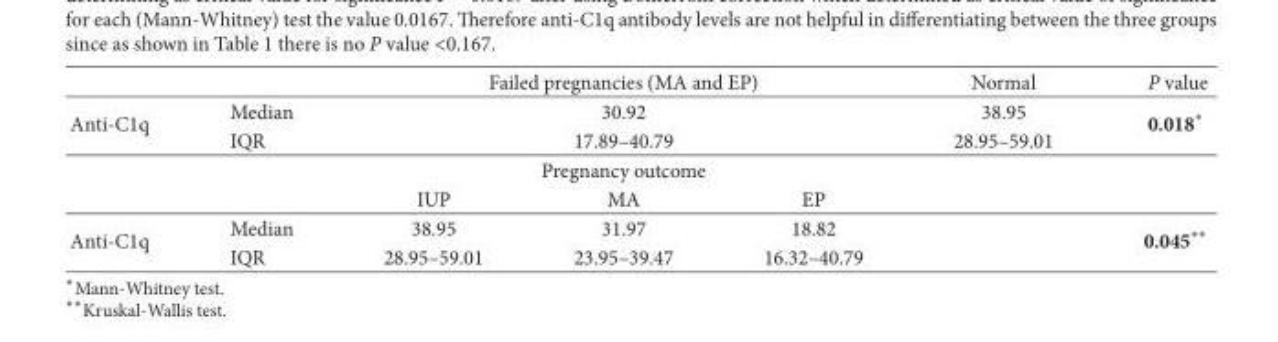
<table><thead><tr><td></td><td></td><td colspan="3">Failed pregnancies (MA and EP)</td><td>Normal</td><td>P value</td></tr></thead><tbody><tr><td rowspan="4">Anti-C1q</td><td>Median</td><td colspan="3">30.92</td><td>38.95</td><td rowspan="2">0.018∗</td></tr><tr><td>IQR</td><td colspan="3">17.89–40.79</td><td>28.95–59.01</td></tr><tr><td></td><td colspan="3">Pregnancy outcome</td><td></td><td></td></tr><tr><td></td><td>IUP</td><td>MA</td><td>EP</td><td></td><td></td></tr><tr><td rowspan="2">Anti-C1q</td><td>Median</td><td>38.95</td><td>31.97</td><td>18.82</td><td></td><td rowspan="2">0.045∗∗</td></tr><tr><td>IQR</td><td>28.95–59.01</td><td>23.95–39.47</td><td>16.32–40.79</td><td></td></tr></tbody></table>